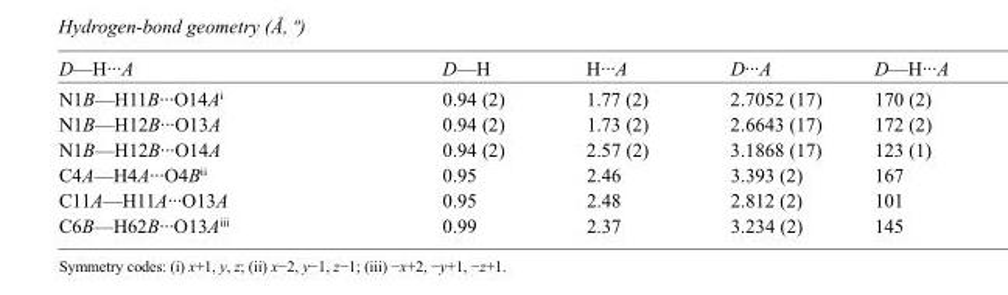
<table><tbody><tr><td>D—H···A</td><td>D—H</td><td>H···A</td><td>D···A</td><td>D—H···A</td></tr><tr><td>N1B—H11B···O14A<sup>i</sup></td><td>0.94 (2)</td><td>1.77 (2)</td><td>2.7052 (17)</td><td>170 (2)</td></tr><tr><td>N1B—H12B···O13A</td><td>0.94 (2)</td><td>1.73 (2)</td><td>2.6643 (17)</td><td>172 (2)</td></tr><tr><td>N1B—H12B···O14A</td><td>0.94 (2)</td><td>2.57 (2)</td><td>3.1868 (17)</td><td>123 (1)</td></tr><tr><td>C4A—H4A···O4B<sup>ii</sup></td><td>0.95</td><td>2.46</td><td>3.393 (2)</td><td>167</td></tr><tr><td>C11A—H11A···O13A</td><td>0.95</td><td>2.48</td><td>2.812 (2)</td><td>101</td></tr><tr><td>C6B—H62B···O13A<sup>iii</sup></td><td>0.99</td><td>2.37</td><td>3.234 (2)</td><td>145</td></tr></tbody></table>